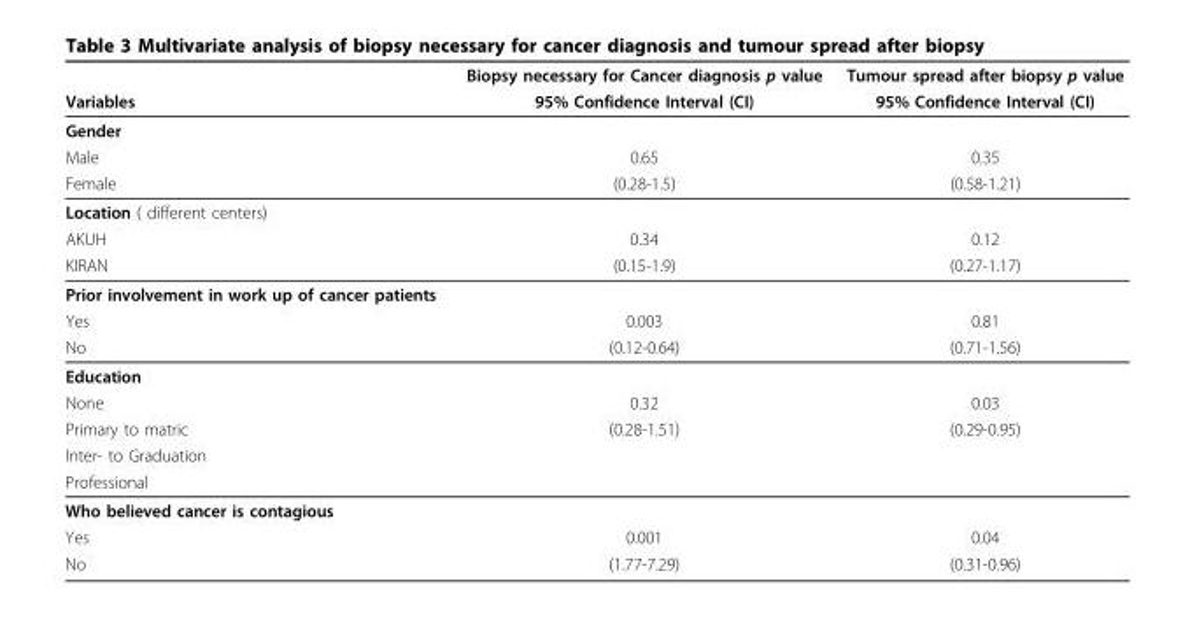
<table><thead><tr><td rowspan="2">Variables</td><td rowspan="2">Biopsy necessary for Cancer diagnosis p value 95% Confidence Interval (CI)</td><td rowspan="2">Tumour spread after biopsy p value 95% Confidence Interval (CI)</td></tr><tr></tr></thead><tbody><tr><td colspan="3">Gender</td></tr><tr><td>Male</td><td>0.65</td><td>0.35</td></tr><tr><td>Female</td><td>(0.28-1.5)</td><td>(0.58-1.21)</td></tr><tr><td colspan="3">Location ( different centers)</td></tr><tr><td>AKUH</td><td>0.34</td><td>0.12</td></tr><tr><td>KIRAN</td><td>(0.15-1.9)</td><td>(0.27-1.17)</td></tr><tr><td colspan="3">Prior involvement in work up of cancer patients</td></tr><tr><td>Yes</td><td>0.003</td><td>0.81</td></tr><tr><td>No</td><td>(0.12-0.64)</td><td>(0.71-1.56)</td></tr><tr><td colspan="3">Education</td></tr><tr><td>None</td><td>0.32</td><td>0.03</td></tr><tr><td>Primary to matric</td><td>(0.28-1.51)</td><td>(0.29-0.95)</td></tr><tr><td colspan="3">Inter- to Graduation</td></tr><tr><td colspan="3">Professional</td></tr><tr><td colspan="3">Who believed cancer is contagious</td></tr><tr><td>Yes</td><td>0.001</td><td>0.04</td></tr><tr><td>No</td><td>(1.77-7.29)</td><td>(0.31-0.96)</td></tr></tbody></table>